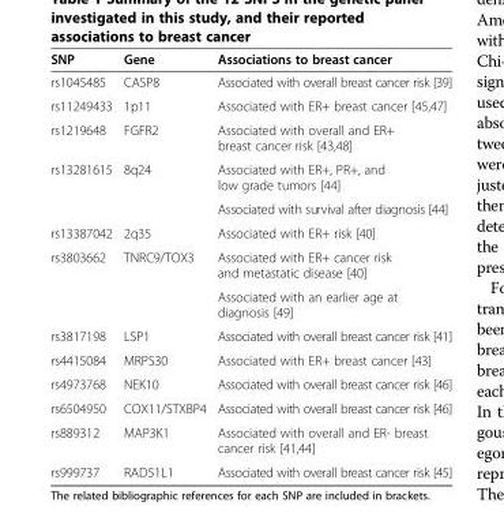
<table><thead><tr><td>SNP</td><td>Gene</td><td>Associations to breast cancer</td></tr></thead><tbody><tr><td>rs1045485</td><td>CASP8</td><td>Associated with overall breast cancer risk [39]</td></tr><tr><td>rs11249433</td><td>1p11</td><td>Associated with ER+ breast cancer [45,47]</td></tr><tr><td>rs1219648</td><td>FGFR2</td><td>Associated with overall and ER+ breast cancer risk [43,48]</td></tr><tr><td rowspan="2">rs13281615</td><td rowspan="2">8q24</td><td>Associated with ER+, PR+, and low grade tumors [44]</td></tr><tr><td>Associated with survival after diagnosis [44]</td></tr><tr><td>rs13387042</td><td>2q35</td><td>Associated with ER+ risk [40]</td></tr><tr><td rowspan="2">rs3803662</td><td rowspan="2">TNRC9/TOX3</td><td>Associated with ER+ cancer risk and metastatic disease [40]</td></tr><tr><td>Associated with an earlier age at diagnosis [49]</td></tr><tr><td>rs3817198</td><td>LSP1</td><td>Associated with overall breast cancer risk [41]</td></tr><tr><td>rs4415084</td><td>MRPS30</td><td>Associated with ER+ breast cancer [43]</td></tr><tr><td>rs4973768</td><td>NEK10</td><td>Associated with overall breast cancer risk [46]</td></tr><tr><td>rs6504950</td><td>COX11/STXBP4</td><td>Associated with overall breast cancer risk [46]</td></tr><tr><td>rs889312</td><td>MAP3K1</td><td>Associated with overall and ER- breast cancer risk [41,44]</td></tr><tr><td>rs999737</td><td>RAD51L1</td><td>Associated with overall breast cancer risk [45]</td></tr></tbody></table>